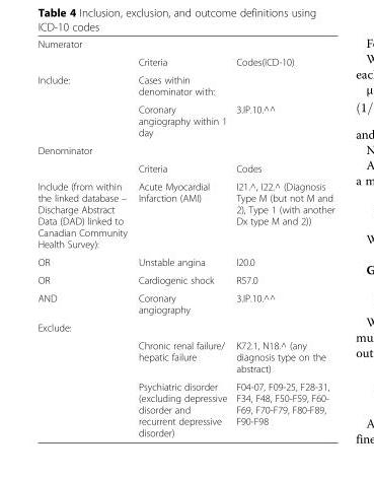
<table><tbody><tr><td colspan="3">Numerator</td></tr><tr><td></td><td>Criteria</td><td>Codes(ICD-10)</td></tr><tr><td rowspan="2">Include:</td><td>Cases within denominator with:</td><td></td></tr><tr><td>Coronary angiography within 1 day</td><td>3.IP.10.^^</td></tr><tr><td colspan="3">Denominator</td></tr><tr><td></td><td>Criteria</td><td>Codes</td></tr><tr><td>Include (from within the linked database – Discharge Abstract Data (DAD) linked to Canadian Community Health Survey):</td><td>Acute Myocardial Infarction (AMI)</td><td>I21.^, I22.^ (Diagnosis Type M (but not M and 2), Type 1 (with another Dx type M and 2))</td></tr><tr><td>OR</td><td>Unstable angina</td><td>I20.0</td></tr><tr><td>OR</td><td>Cardiogenic shock</td><td>R57.0</td></tr><tr><td>AND</td><td>Coronary angiography</td><td>3.IP.10.^^</td></tr><tr><td colspan="3">Exclude:</td></tr><tr><td></td><td>Chronic renal failure/ hepatic failure</td><td>K72.1, N18.^ (any diagnosis type on the abstract)</td></tr><tr><td></td><td>Psychiatric disorder (excluding depressive disorder and recurrent depressive disorder)</td><td>F04-07, F09-25, F28-31, F34, F48, F50-F59, F60- F69, F70-F79, F80-F89, F90-F98</td></tr></tbody></table>